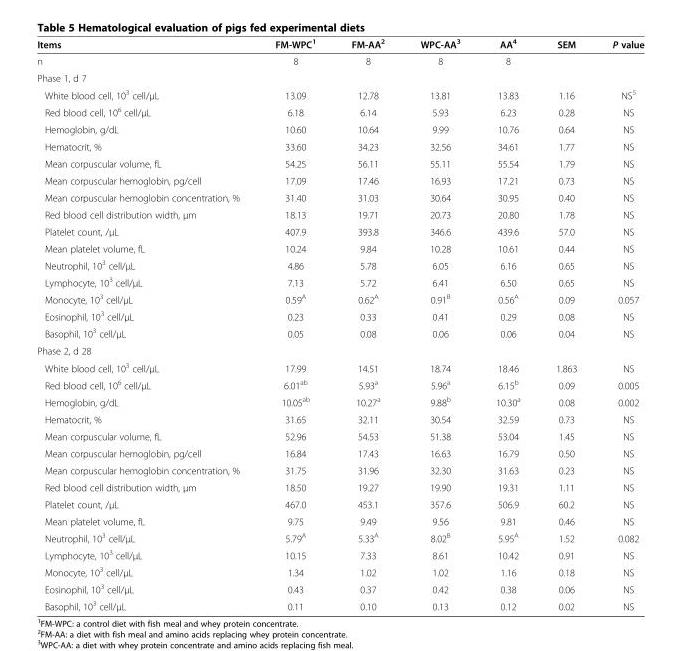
<table><thead><tr><td>Items</td><td>FM-WPC<sup>1</sup></td><td>FM-AA<sup>2</sup></td><td>WPC-AA<sup>3</sup></td><td>AA<sup>4</sup></td><td>SEM</td><td>P value</td></tr></thead><tbody><tr><td>n</td><td>8</td><td>8</td><td>8</td><td>8</td><td></td><td></td></tr><tr><td colspan="7">Phase 1, d 7</td></tr><tr><td>White blood cell, 10<sup>3</sup> cell/μL</td><td>13.09</td><td>12.78</td><td>13.81</td><td>13.83</td><td>1.16</td><td>NS<sup>5</sup></td></tr><tr><td>Red blood cell, 10<sup>6</sup> cell/μL</td><td>6.18</td><td>6.14</td><td>5.93</td><td>6.23</td><td>0.28</td><td>NS</td></tr><tr><td>Hemoglobin, g/dL</td><td>10.60</td><td>10.64</td><td>9.99</td><td>10.76</td><td>0.64</td><td>NS</td></tr><tr><td>Hematocrit, %</td><td>33.60</td><td>34.23</td><td>32.56</td><td>34.61</td><td>1.77</td><td>NS</td></tr><tr><td>Mean corpuscular volume, fL</td><td>54.25</td><td>56.11</td><td>55.11</td><td>55.54</td><td>1.79</td><td>NS</td></tr><tr><td>Mean corpuscular hemoglobin, pg/cell</td><td>17.09</td><td>17.46</td><td>16.93</td><td>17.21</td><td>0.73</td><td>NS</td></tr><tr><td>Mean corpuscular hemoglobin concentration, %</td><td>31.40</td><td>31.03</td><td>30.64</td><td>30.95</td><td>0.40</td><td>NS</td></tr><tr><td>Red blood cell distribution width, μm</td><td>18.13</td><td>19.71</td><td>20.73</td><td>20.80</td><td>1.78</td><td>NS</td></tr><tr><td>Platelet count, /μL</td><td>407.9</td><td>393.8</td><td>346.6</td><td>439.6</td><td>57.0</td><td>NS</td></tr><tr><td>Mean platelet volume, fL</td><td>10.24</td><td>9.84</td><td>10.28</td><td>10.61</td><td>0.44</td><td>NS</td></tr><tr><td>Neutrophil, 10<sup>3</sup> cell/μL</td><td>4.86</td><td>5.78</td><td>6.05</td><td>6.16</td><td>0.65</td><td>NS</td></tr><tr><td>Lymphocyte, 10<sup>3</sup> cell/μL</td><td>7.13</td><td>5.72</td><td>6.41</td><td>6.50</td><td>0.65</td><td>NS</td></tr><tr><td>Monocyte, 10<sup>3</sup> cell/μL</td><td>0.59<sup>A</sup></td><td>0.62<sup>A</sup></td><td>0.91<sup>B</sup></td><td>0.56<sup>A</sup></td><td>0.09</td><td>0.057</td></tr><tr><td>Eosinophil, 10<sup>3</sup> cell/μL</td><td>0.23</td><td>0.33</td><td>0.41</td><td>0.29</td><td>0.08</td><td>NS</td></tr><tr><td>Basophil, 10<sup>3</sup> cell/μL</td><td>0.05</td><td>0.08</td><td>0.06</td><td>0.06</td><td>0.04</td><td>NS</td></tr><tr><td colspan="7">Phase 2, d 28</td></tr><tr><td>White blood cell, 10<sup>3</sup> cell/μL</td><td>17.99</td><td>14.51</td><td>18.74</td><td>18.46</td><td>1.863</td><td>NS</td></tr><tr><td>Red blood cell, 10<sup>6</sup> cell/μL</td><td>6.01<sup>ab</sup></td><td>5.93<sup>a</sup></td><td>5.96<sup>a</sup></td><td>6.15<sup>b</sup></td><td>0.09</td><td>0.005</td></tr><tr><td>Hemoglobin, g/dL</td><td>10.05<sup>ab</sup></td><td>10.27<sup>a</sup></td><td>9.88<sup>b</sup></td><td>10.30<sup>a</sup></td><td>0.08</td><td>0.002</td></tr><tr><td>Hematocrit, %</td><td>31.65</td><td>32.11</td><td>30.54</td><td>32.59</td><td>0.73</td><td>NS</td></tr><tr><td>Mean corpuscular volume, fL</td><td>52.96</td><td>54.53</td><td>51.38</td><td>53.04</td><td>1.45</td><td>NS</td></tr><tr><td>Mean corpuscular hemoglobin, pg/cell</td><td>16.84</td><td>17.43</td><td>16.63</td><td>16.79</td><td>0.50</td><td>NS</td></tr><tr><td>Mean corpuscular hemoglobin concentration, %</td><td>31.75</td><td>31.96</td><td>32.30</td><td>31.63</td><td>0.23</td><td>NS</td></tr><tr><td>Red blood cell distribution width, μm</td><td>18.50</td><td>19.27</td><td>19.90</td><td>19.31</td><td>1.11</td><td>NS</td></tr><tr><td>Platelet count, /μL</td><td>467.0</td><td>453.1</td><td>357.6</td><td>506.9</td><td>60.2</td><td>NS</td></tr><tr><td>Mean platelet volume, fL</td><td>9.75</td><td>9.49</td><td>9.56</td><td>9.81</td><td>0.46</td><td>NS</td></tr><tr><td>Neutrophil, 10<sup>3</sup> cell/μL</td><td>5.79<sup>A</sup></td><td>5.33<sup>A</sup></td><td>8.02<sup>B</sup></td><td>5.95<sup>A</sup></td><td>1.52</td><td>0.082</td></tr><tr><td>Lymphocyte, 10<sup>3</sup> cell/μL</td><td>10.15</td><td>7.33</td><td>8.61</td><td>10.42</td><td>0.91</td><td>NS</td></tr><tr><td>Monocyte, 10<sup>3</sup> cell/μL</td><td>1.34</td><td>1.02</td><td>1.02</td><td>1.16</td><td>0.18</td><td>NS</td></tr><tr><td>Eosinophil, 10<sup>3</sup> cell/μL</td><td>0.43</td><td>0.37</td><td>0.42</td><td>0.38</td><td>0.06</td><td>NS</td></tr><tr><td>Basophil, 10<sup>3</sup> cell/μL</td><td>0.11</td><td>0.10</td><td>0.13</td><td>0.12</td><td>0.02</td><td>NS</td></tr></tbody></table>